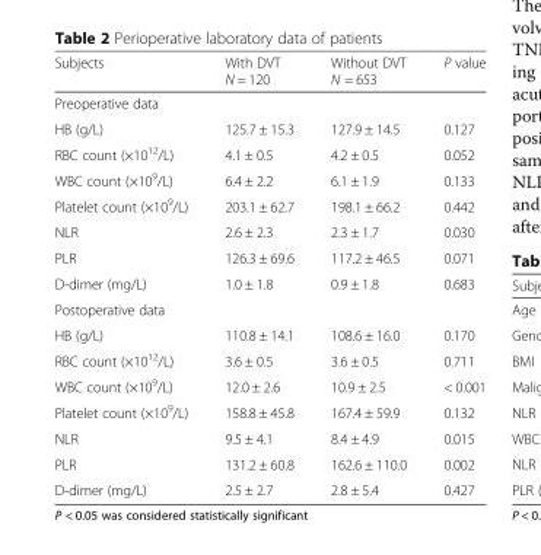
<table><thead><tr><td>Subjects</td><td>With DVT N = 120</td><td>Without DVT N = 653</td><td>P value</td></tr></thead><tbody><tr><td colspan="4">Preoperative data</td></tr><tr><td>HB (g/L)</td><td>125.7 ± 15.3</td><td>127.9 ± 14.5</td><td>0.127</td></tr><tr><td>RBC count (×10<sup>12</sup>/L)</td><td>4.1 ± 0.5</td><td>4.2 ± 0.5</td><td>0.052</td></tr><tr><td>WBC count (×10<sup>9</sup>/L)</td><td>6.4 ± 2.2</td><td>6.1 ± 1.9</td><td>0.133</td></tr><tr><td>Platelet count (×10<sup>9</sup>/L)</td><td>203.1 ± 62.7</td><td>198.1 ± 66.2</td><td>0.442</td></tr><tr><td>NLR</td><td>2.6 ± 2.3</td><td>2.3 ± 1.7</td><td>0.030</td></tr><tr><td>PLR</td><td>126.3 ± 69.6</td><td>117.2 ± 46.5</td><td>0.071</td></tr><tr><td>D-dimer (mg/L)</td><td>1.0 ± 1.8</td><td>0.9 ± 1.8</td><td>0.683</td></tr><tr><td colspan="4">Postoperative data</td></tr><tr><td>HB (g/L)</td><td>110.8 ± 14.1</td><td>108.6 ± 16.0</td><td>0.170</td></tr><tr><td>RBC count (×10<sup>12</sup>/L)</td><td>3.6 ± 0.5</td><td>3.6 ± 0.5</td><td>0.711</td></tr><tr><td>WBC count (×10<sup>9</sup>/L)</td><td>12.0 ± 2.6</td><td>10.9 ± 2.5</td><td>&lt; 0.001</td></tr><tr><td>Platelet count (×10<sup>9</sup>/L)</td><td>158.8 ± 45.8</td><td>167.4 ± 59.9</td><td>0.132</td></tr><tr><td>NLR</td><td>9.5 ± 4.1</td><td>8.4 ± 4.9</td><td>0.015</td></tr><tr><td>PLR</td><td>131.2 ± 60.8</td><td>162.6 ± 110.0</td><td>0.002</td></tr><tr><td>D-dimer (mg/L)</td><td>2.5 ± 2.7</td><td>2.8 ± 5.4</td><td>0.427</td></tr></tbody></table>